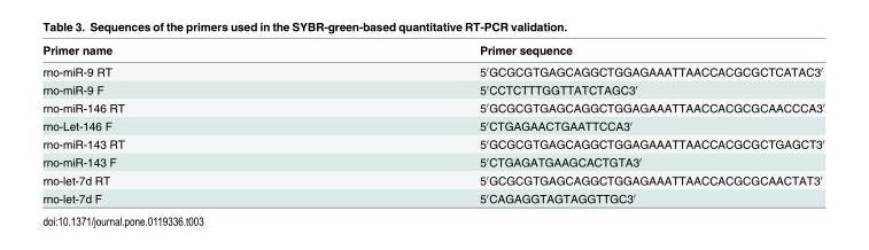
<table><thead><tr><td>Primer name</td><td>Primer sequence</td></tr></thead><tbody><tr><td>rno-miR-9 RT</td><td>5′GCGCGTGAGCAGGCTGGAGAAATTAACCACGCGCTCATAC3′</td></tr><tr><td>rno-miR-9 F</td><td>5′CCTCTTTGGTTATCTAGC3′</td></tr><tr><td>rno-miR-146 RT</td><td>5′GCGCGTGAGCAGGCTGGAGAAATTAACCACGCGCAACCCA3′</td></tr><tr><td>rno-Let-146 F</td><td>5′CTGAGAACTGAATTCCA3′</td></tr><tr><td>rno-miR-143 RT</td><td>5′GCGCGTGAGCAGGCTGGAGAAATTAACCACGCGCTGAGCT3′</td></tr><tr><td>rno-miR-143 F</td><td>5′CTGAGATGAAGCACTGTA3′</td></tr><tr><td>rno-let-7d RT</td><td>5′GCGCGTGAGCAGGCTGGAGAAATTAACCACGCGCAACTAT3′</td></tr><tr><td>rno-let-7d F</td><td>5′CAGAGGTAGTAGGTTGC3′</td></tr></tbody></table>